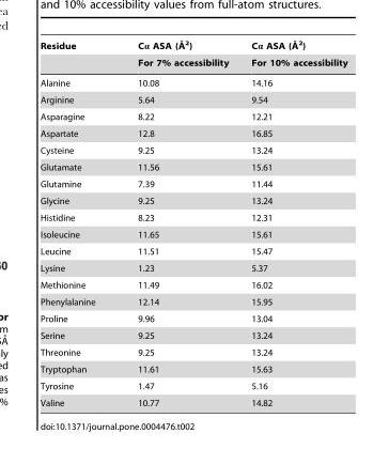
<table><thead><tr><td rowspan="2">Residue</td><td rowspan="2">Ca ASA (A˚ 2) For 7% accessibility</td><td rowspan="2">Ca ASA (A˚ 2) For 10% accessibility</td></tr><tr></tr></thead><tbody><tr><td>Alanine</td><td>10.08</td><td>14.16</td></tr><tr><td>Arginine</td><td>5.64</td><td>9.54</td></tr><tr><td>Asparagine</td><td>8.22</td><td>12.21</td></tr><tr><td>Aspartate</td><td>12.8</td><td>16.85</td></tr><tr><td>Cysteine</td><td>9.25</td><td>13.24</td></tr><tr><td>Glutamate</td><td>11.56</td><td>15.61</td></tr><tr><td>Glutamine</td><td>7.39</td><td>11.44</td></tr><tr><td>Glycine</td><td>9.25</td><td>13.24</td></tr><tr><td>Histidine</td><td>8.23</td><td>12.31</td></tr><tr><td>Isoleucine</td><td>11.65</td><td>15.61</td></tr><tr><td>Leucine</td><td>11.51</td><td>15.47</td></tr><tr><td>Lysine</td><td>1.23</td><td>5.37</td></tr><tr><td>Methionine</td><td>11.49</td><td>16.02</td></tr><tr><td>Phenylalanine</td><td>12.14</td><td>15.95</td></tr><tr><td>Proline</td><td>9.96</td><td>13.04</td></tr><tr><td>Serine</td><td>9.25</td><td>13.24</td></tr><tr><td>Threonine</td><td>9.25</td><td>13.24</td></tr><tr><td>Tryptophan</td><td>11.61</td><td>15.63</td></tr><tr><td>Tyrosine</td><td>1.47</td><td>5.16</td></tr><tr><td>Valine</td><td>10.77</td><td>14.82</td></tr></tbody></table>